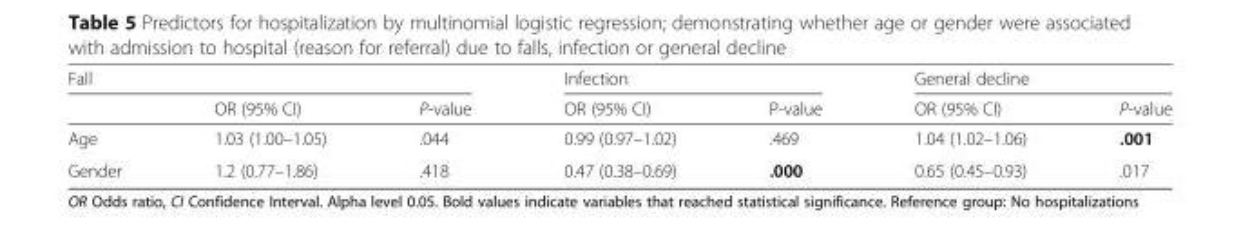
<table><thead><tr><td colspan="3">Fall</td><td colspan="2">Infection</td><td colspan="2">General decline</td></tr><tr><td></td><td>OR (95% CI)</td><td>P-value</td><td>OR (95% CI)</td><td>P-value</td><td>OR (95% CI)</td><td>P-value</td></tr></thead><tbody><tr><td>Age</td><td>1.03 (1.00–1.05)</td><td>.044</td><td>0.99 (0.97–1.02)</td><td>.469</td><td>1.04 (1.02–1.06)</td><td>.001</td></tr><tr><td>Gender</td><td>1.2 (0.77–1.86)</td><td>.418</td><td>0.47 (0.38–0.69)</td><td>.000</td><td>0.65 (0.45–0.93)</td><td>.017</td></tr></tbody></table>